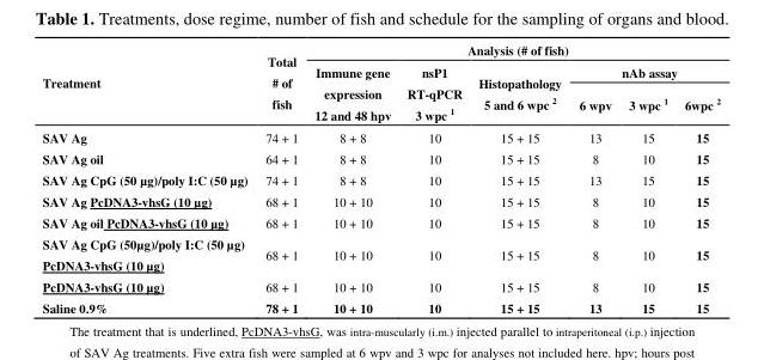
<table><thead><tr><td rowspan="3">Treatment</td><td rowspan="3">Total # of fish</td><td colspan="6">Analysis (# of fish)</td></tr><tr><td rowspan="2">Immune gene expression 12 and 48 hpv</td><td rowspan="2">nsP1 RT-qPCR 3 wpc <sup>1</sup></td><td rowspan="2">Histopathology 5 and 6 wpc <sup>2</sup></td><td colspan="3">nAb assay</td></tr><tr><td>6 wpv</td><td>3 wpc <sup>1</sup></td><td>6wpc <sup>2</sup></td></tr></thead><tbody><tr><td>SAV Ag</td><td>74 + 1</td><td>8 + 8</td><td>10</td><td>15 + 15</td><td>13</td><td>15</td><td>15</td></tr><tr><td>SAV Ag oil</td><td>64 + 1</td><td>8 + 8</td><td>10</td><td>15 + 15</td><td>8</td><td>10</td><td>15</td></tr><tr><td>SAV Ag CpG (50 µg)/poly I:C (50 µg)</td><td>74 + 1</td><td>8 + 8</td><td>10</td><td>15 + 15</td><td>13</td><td>15</td><td>15</td></tr><tr><td>SAV Ag PcDNA3-vhsG (10 µg)</td><td>68 + 1</td><td>10 + 10</td><td>10</td><td>15 + 15</td><td>8</td><td>10</td><td>15</td></tr><tr><td>SAV Ag oil PcDNA3-vhsG (10 µg)</td><td>68 + 1</td><td>10 + 10</td><td>10</td><td>15 + 15</td><td>8</td><td>10</td><td>15</td></tr><tr><td>SAV Ag CpG (50µg)/poly I:C (50 µg) PcDNA3-vhsG (10 µg)</td><td>68 + 1</td><td>10 + 10</td><td>10</td><td>15 + 15</td><td>8</td><td>10</td><td>15</td></tr><tr><td>PcDNA3-vhsG (10 µg)</td><td>68 + 1</td><td>10 + 10</td><td>10</td><td>15 + 15</td><td>8</td><td>10</td><td>15</td></tr><tr><td>Saline 0.9%</td><td>78 + 1</td><td>10 + 10</td><td>10</td><td>15 + 15</td><td>13</td><td>15</td><td>15</td></tr></tbody></table>